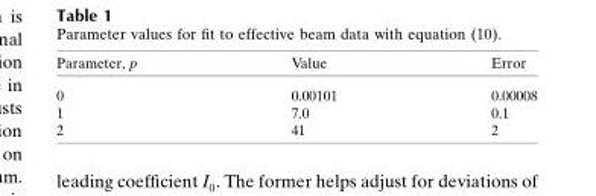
<table><thead><tr><td>Parameter, p</td><td>Value</td><td>Error</td></tr></thead><tbody><tr><td>0</td><td>0.00101</td><td>0.00008</td></tr><tr><td>1</td><td>7.0</td><td>0.1</td></tr><tr><td>2</td><td>41</td><td>2</td></tr></tbody></table>